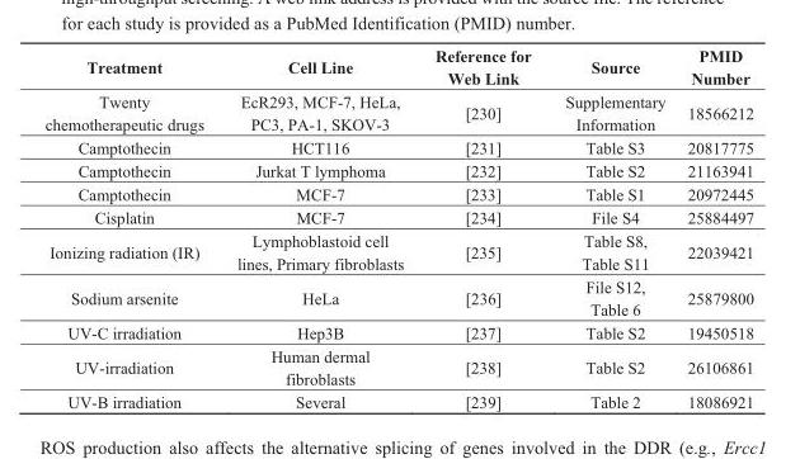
<table><thead><tr><td>Treatment</td><td>Cell Line</td><td>Reference for Web Link</td><td>Source</td><td>PMID Number</td></tr></thead><tbody><tr><td>Twenty chemotherapeutic drugs</td><td>EcR293, MCF-7, HeLa, PC3, PA-1, SKOV-3</td><td>[230]</td><td>Supplementary Information</td><td>18566212</td></tr><tr><td>Camptothecin</td><td>HCT116</td><td>[231]</td><td>Table S3</td><td>20817775</td></tr><tr><td>Camptothecin</td><td>Jurkat T lymphoma</td><td>[232]</td><td>Table S2</td><td>21163941</td></tr><tr><td>Camptothecin</td><td>MCF-7</td><td>[233]</td><td>Table S1</td><td>20972445</td></tr><tr><td>Cisplatin</td><td>MCF-7</td><td>[234]</td><td>File S4</td><td>25884497</td></tr><tr><td>Ionizing radiation (IR)</td><td>Lymphoblastoid cell lines, Primary fibroblasts</td><td>[235]</td><td>Table S8, Table S11</td><td>22039421</td></tr><tr><td>Sodium arsenite</td><td>HeLa</td><td>[236]</td><td>File S12, Table 6</td><td>25879800</td></tr><tr><td>UV-C irradiation</td><td>Hep3B</td><td>[237]</td><td>Table S2</td><td>19450518</td></tr><tr><td>UV-irradiation</td><td>Human dermal fibroblasts</td><td>[238]</td><td>Table S2</td><td>26106861</td></tr><tr><td>UV-B irradiation</td><td>Several</td><td>[239]</td><td>Table 2</td><td>18086921</td></tr></tbody></table>